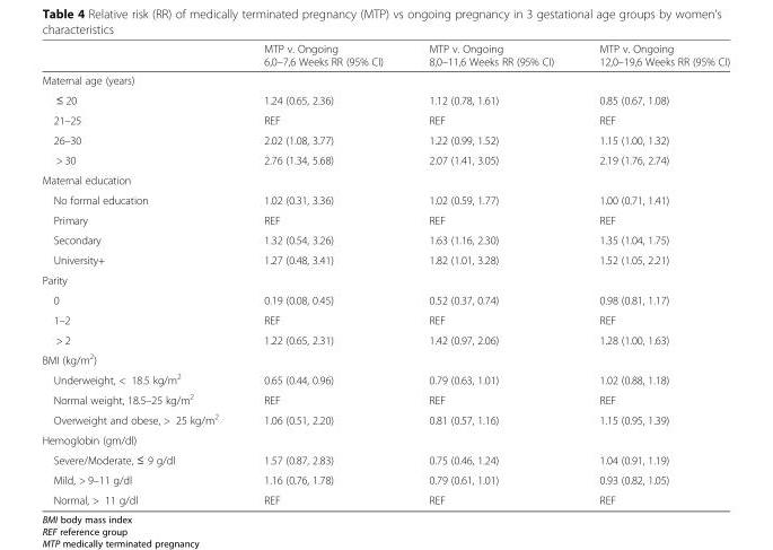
<table><thead><tr><td></td><td>MTP v. Ongoing 6,0–7,6 Weeks RR (95% CI)</td><td>MTP v. Ongoing 8,0–11,6 Weeks RR (95% CI)</td><td>MTP v. Ongoing 12,0–19,6 Weeks RR (95% CI)</td></tr></thead><tbody><tr><td colspan="4">Maternal age (years)</td></tr><tr><td>≤ 20</td><td>1.24 (0.65, 2.36)</td><td>1.12 (0.78, 1.61)</td><td>0.85 (0.67, 1.08)</td></tr><tr><td>21–25</td><td>REF</td><td>REF</td><td>REF</td></tr><tr><td>26–30</td><td>2.02 (1.08, 3.77)</td><td>1.22 (0.99, 1.52)</td><td>1.15 (1.00, 1.32)</td></tr><tr><td>&gt; 30</td><td>2.76 (1.34, 5.68)</td><td>2.07 (1.41, 3.05)</td><td>2.19 (1.76, 2.74)</td></tr><tr><td colspan="4">Maternal education</td></tr><tr><td>No formal education</td><td>1.02 (0.31, 3.36)</td><td>1.02 (0.59, 1.77)</td><td>1.00 (0.71, 1.41)</td></tr><tr><td>Primary</td><td>REF</td><td>REF</td><td>REF</td></tr><tr><td>Secondary</td><td>1.32 (0.54, 3.26)</td><td>1.63 (1.16, 2.30)</td><td>1.35 (1.04, 1.75)</td></tr><tr><td>University+</td><td>1.27 (0.48, 3.41)</td><td>1.82 (1.01, 3.28)</td><td>1.52 (1.05, 2.21)</td></tr><tr><td colspan="4">Parity</td></tr><tr><td>0</td><td>0.19 (0.08, 0.45)</td><td>0.52 (0.37, 0.74)</td><td>0.98 (0.81, 1.17)</td></tr><tr><td>1–2</td><td>REF</td><td>REF</td><td>REF</td></tr><tr><td>&gt; 2</td><td>1.22 (0.65, 2.31)</td><td>1.42 (0.97, 2.06)</td><td>1.28 (1.00, 1.63)</td></tr><tr><td colspan="4">BMI (kg/m<sup>2</sup>)</td></tr><tr><td>Underweight, &lt; 18.5 kg/m<sup>2</sup></td><td>0.65 (0.44, 0.96)</td><td>0.79 (0.63, 1.01)</td><td>1.02 (0.88, 1.18)</td></tr><tr><td>Normal weight, 18.5–25 kg/m<sup>2</sup></td><td>REF</td><td>REF</td><td>REF</td></tr><tr><td>Overweight and obese, &gt; 25 kg/m<sup>2</sup></td><td>1.06 (0.51, 2.20)</td><td>0.81 (0.57, 1.16)</td><td>1.15 (0.95, 1.39)</td></tr><tr><td colspan="4">Hemoglobin (gm/dl)</td></tr><tr><td>Severe/Moderate, ≤ 9 g/dl</td><td>1.57 (0.87, 2.83)</td><td>0.75 (0.46, 1.24)</td><td>1.04 (0.91, 1.19)</td></tr><tr><td>Mild, &gt; 9–11 g/dl</td><td>1.16 (0.76, 1.78)</td><td>0.79 (0.61, 1.01)</td><td>0.93 (0.82, 1.05)</td></tr><tr><td>Normal, &gt; 11 g/dl</td><td>REF</td><td>REF</td><td>REF</td></tr></tbody></table>